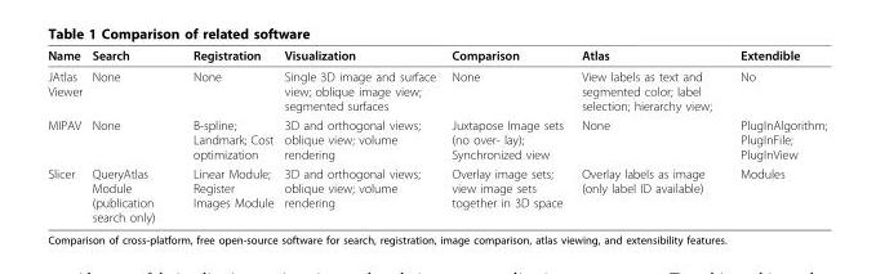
<table><thead><tr><td>Name</td><td>Search</td><td>Registration</td><td>Visualization</td><td>Comparison</td><td>Atlas</td><td>Extendible</td></tr></thead><tbody><tr><td>JAtlas Viewer</td><td>None</td><td>None</td><td>Single 3D image and surface view; oblique image view; segmented surfaces</td><td>None</td><td>View labels as text and segmented color; label selection; hierarchy view;</td><td>No</td></tr><tr><td>MIPAV</td><td>None</td><td>B-spline; Landmark; Cost optimization</td><td>3D and orthogonal views; oblique view; volume rendering</td><td>Juxtapose Image sets (no over- lay); Synchronized view</td><td>None</td><td>PlugInAlgorithm; PlugInFile; PlugInView</td></tr><tr><td>Slicer</td><td>QueryAtlas Module (publication search only)</td><td>Linear Module; Register Images Module</td><td>3D and orthogonal views; oblique view; volume rendering</td><td>Overlay image sets; view image sets together in 3D space</td><td>Overlay labels as image (only label ID available)</td><td>Modules</td></tr></tbody></table>